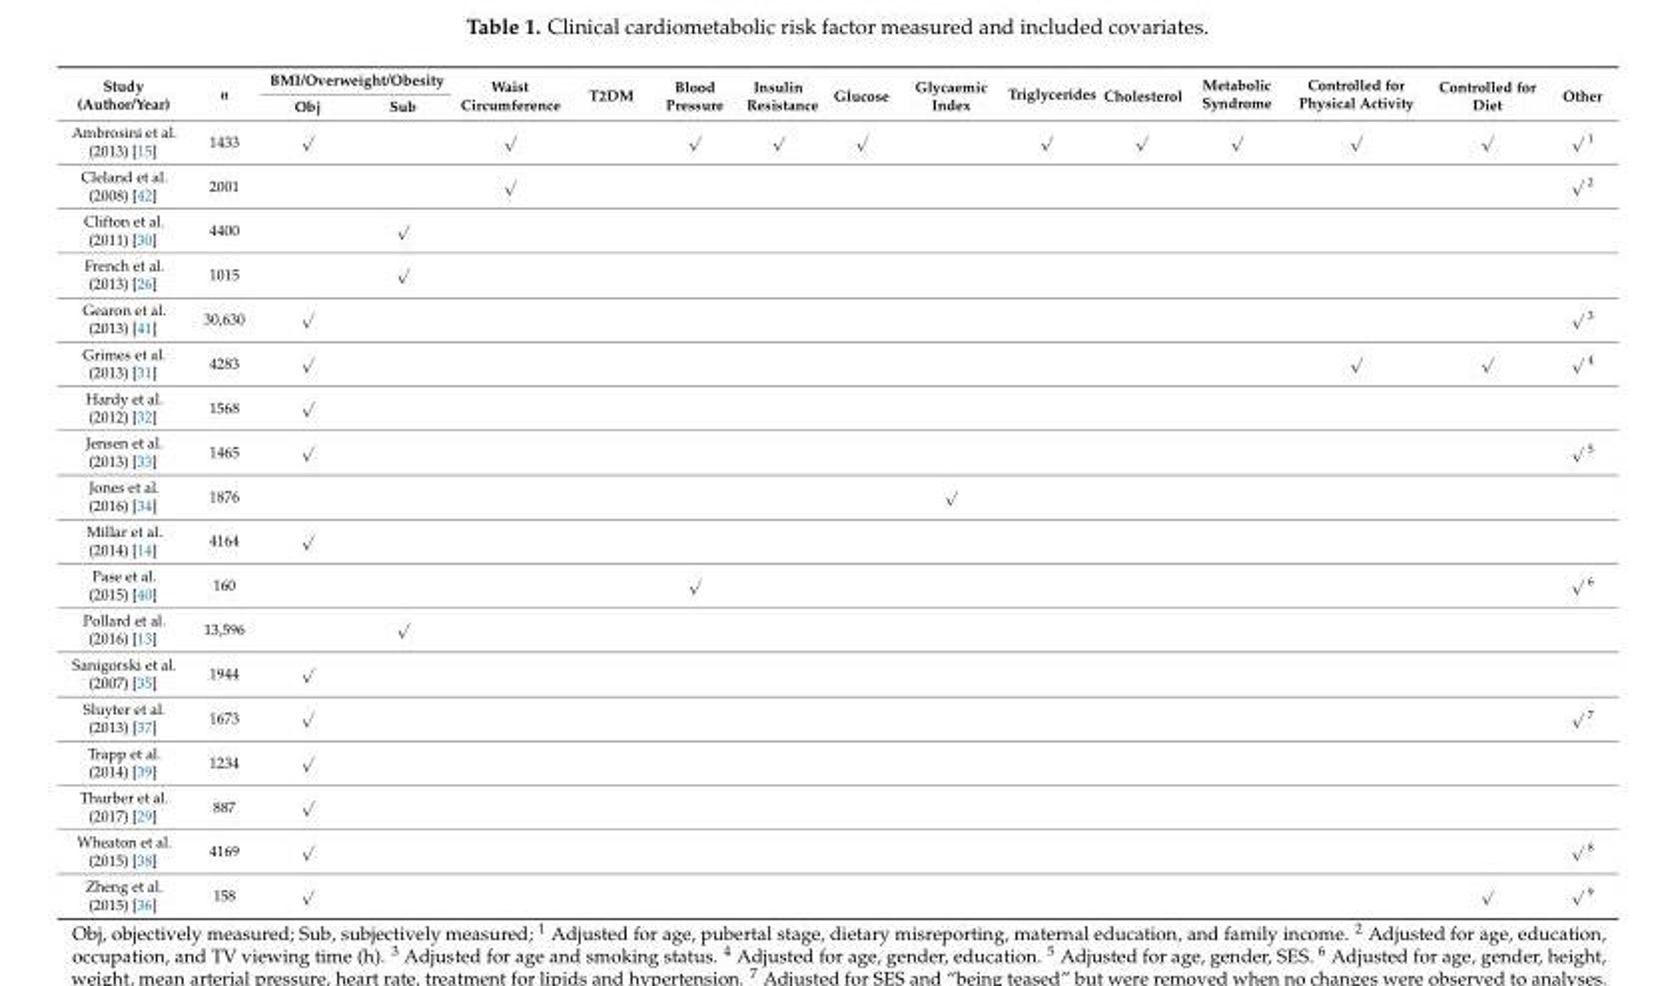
<table><thead><tr><td rowspan="2">Study (Author/Year)</td><td rowspan="2">n</td><td colspan="2">BMI/Overweight/Obesity</td><td rowspan="2">Waist Circumference</td><td rowspan="2">T2DM</td><td rowspan="2">Blood Pressure</td><td rowspan="2">Insulin Resistance</td><td rowspan="2">Glucose</td><td rowspan="2">Glycaemic Index</td><td rowspan="2">Triglycerides</td><td rowspan="2">Cholesterol</td><td rowspan="2">Metabolic Syndrome</td><td rowspan="2">Controlled for Physical Activity</td><td rowspan="2">Controlled for Diet</td><td rowspan="2">Other</td></tr><tr><td>Obj</td><td>Sub</td></tr></thead><tbody><tr><td>Ambrosini et al. (2013) [15]</td><td>1433</td><td>√</td><td></td><td>√</td><td></td><td>√</td><td>√</td><td>√</td><td></td><td>√</td><td>√</td><td>√</td><td>√</td><td>√</td><td>√ <sup>1</sup></td></tr><tr><td>Cleland et al. (2008) [42]</td><td>2001</td><td></td><td></td><td>√</td><td></td><td></td><td></td><td></td><td></td><td></td><td></td><td></td><td></td><td></td><td>√ <sup>2</sup></td></tr><tr><td>Clifton et al. (2011) [30]</td><td>4400</td><td></td><td>√</td><td></td><td></td><td></td><td></td><td></td><td></td><td></td><td></td><td></td><td></td><td></td><td></td></tr><tr><td>French et al. (2013) [26]</td><td>1015</td><td></td><td>√</td><td></td><td></td><td></td><td></td><td></td><td></td><td></td><td></td><td></td><td></td><td></td><td></td></tr><tr><td>Gearon et al. (2013) [41]</td><td>30,630</td><td>√</td><td></td><td></td><td></td><td></td><td></td><td></td><td></td><td></td><td></td><td></td><td></td><td></td><td>√ <sup>3</sup></td></tr><tr><td>Grimes et al. (2013) [31]</td><td>4283</td><td>√</td><td></td><td></td><td></td><td></td><td></td><td></td><td></td><td></td><td></td><td></td><td>√</td><td>√</td><td>√ <sup>4</sup></td></tr><tr><td>Hardy et al. (2012) [32]</td><td>1568</td><td>√</td><td></td><td></td><td></td><td></td><td></td><td></td><td></td><td></td><td></td><td></td><td></td><td></td><td></td></tr><tr><td>Jensen et al. (2013) [33]</td><td>1465</td><td>√</td><td></td><td></td><td></td><td></td><td></td><td></td><td></td><td></td><td></td><td></td><td></td><td></td><td>√ <sup>5</sup></td></tr><tr><td>Jones et al. (2016) [34]</td><td>1876</td><td></td><td></td><td></td><td></td><td></td><td></td><td></td><td>√</td><td></td><td></td><td></td><td></td><td></td><td></td></tr><tr><td>Millar et al. (2014) [14]</td><td>4164</td><td>√</td><td></td><td></td><td></td><td></td><td></td><td></td><td></td><td></td><td></td><td></td><td></td><td></td><td></td></tr><tr><td>Pase et al. (2015) [40]</td><td>160</td><td></td><td></td><td></td><td></td><td>√</td><td></td><td></td><td></td><td></td><td></td><td></td><td></td><td></td><td>√ <sup>6</sup></td></tr><tr><td>Pollard et al. (2016) [13]</td><td>13,596</td><td></td><td>√</td><td></td><td></td><td></td><td></td><td></td><td></td><td></td><td></td><td></td><td></td><td></td><td></td></tr><tr><td>Sanigorski et al. (2007) [35]</td><td>1944</td><td>√</td><td></td><td></td><td></td><td></td><td></td><td></td><td></td><td></td><td></td><td></td><td></td><td></td><td></td></tr><tr><td>Sluyter et al. (2013) [37]</td><td>1673</td><td>√</td><td></td><td></td><td></td><td></td><td></td><td></td><td></td><td></td><td></td><td></td><td></td><td></td><td>√ <sup>7</sup></td></tr><tr><td>Trapp et al. (2014) [39]</td><td>1234</td><td>√</td><td></td><td></td><td></td><td></td><td></td><td></td><td></td><td></td><td></td><td></td><td></td><td></td><td></td></tr><tr><td>Thurber et al. (2017) [29]</td><td>887</td><td>√</td><td></td><td></td><td></td><td></td><td></td><td></td><td></td><td></td><td></td><td></td><td></td><td></td><td></td></tr><tr><td>Wheaton et al. (2015) [38]</td><td>4169</td><td>√</td><td></td><td></td><td></td><td></td><td></td><td></td><td></td><td></td><td></td><td></td><td></td><td></td><td>√ <sup>8</sup></td></tr><tr><td>Zheng et al. (2015) [36]</td><td>158</td><td>√</td><td></td><td></td><td></td><td></td><td></td><td></td><td></td><td></td><td></td><td></td><td></td><td>√</td><td>√ <sup>9</sup></td></tr></tbody></table>